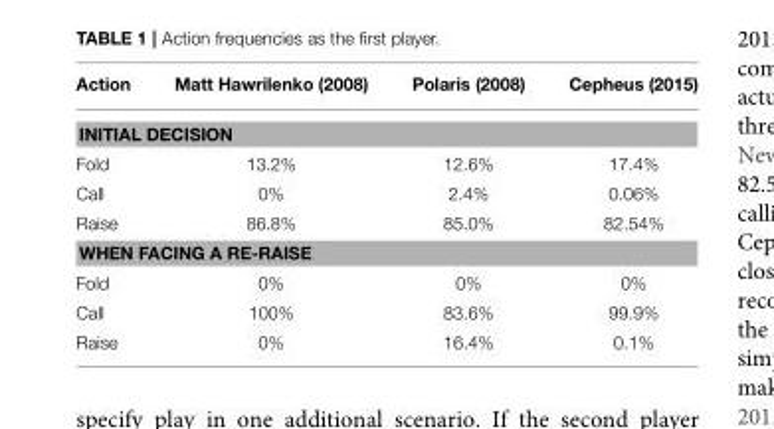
<table><thead><tr><td>Action</td><td>Matt Hawrilenko (2008)</td><td>Polaris (2008)</td><td>Cepheus (2015)</td></tr></thead><tbody><tr><td colspan="4">INITIAL DECISION</td></tr><tr><td>Fold</td><td>13.2%</td><td>12.6%</td><td>17.4%</td></tr><tr><td>Call</td><td>0%</td><td>2.4%</td><td>0.06%</td></tr><tr><td>Raise</td><td>86.8%</td><td>85.0%</td><td>82.54%</td></tr><tr><td colspan="4">WHEN FACING A RE-RAISE</td></tr><tr><td>Fold</td><td>0%</td><td>0%</td><td>0%</td></tr><tr><td>Call</td><td>100%</td><td>83.6%</td><td>99.9%</td></tr><tr><td>Raise</td><td>0%</td><td>16.4%</td><td>0.1%</td></tr></tbody></table>